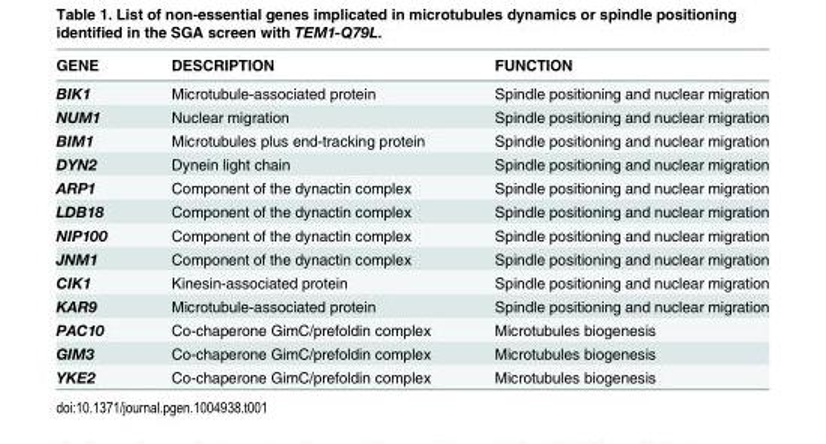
<table><thead><tr><td>GENE</td><td>DESCRIPTION</td><td>FUNCTION</td></tr></thead><tbody><tr><td>BIK1</td><td>Microtubule-associated protein</td><td>Spindle positioning and nuclear migration</td></tr><tr><td>NUM1</td><td>Nuclear migration</td><td>Spindle positioning and nuclear migration</td></tr><tr><td>BIM1</td><td>Microtubules plus end-tracking protein</td><td>Spindle positioning and nuclear migration</td></tr><tr><td>DYN2</td><td>Dynein light chain</td><td>Spindle positioning and nuclear migration</td></tr><tr><td>ARP1</td><td>Component of the dynactin complex</td><td>Spindle positioning and nuclear migration</td></tr><tr><td>LDB18</td><td>Component of the dynactin complex</td><td>Spindle positioning and nuclear migration</td></tr><tr><td>NIP100</td><td>Component of the dynactin complex</td><td>Spindle positioning and nuclear migration</td></tr><tr><td>JNM1</td><td>Component of the dynactin complex</td><td>Spindle positioning and nuclear migration</td></tr><tr><td>CIK1</td><td>Kinesin-associated protein</td><td>Spindle positioning and nuclear migration</td></tr><tr><td>KAR9</td><td>Microtubule-associated protein</td><td>Spindle positioning and nuclear migration</td></tr><tr><td>PAC10</td><td>Co-chaperone GimC/prefoldin complex</td><td>Microtubules biogenesis</td></tr><tr><td>GIM3</td><td>Co-chaperone GimC/prefoldin complex</td><td>Microtubules biogenesis</td></tr><tr><td>YKE2</td><td>Co-chaperone GimC/prefoldin complex</td><td>Microtubules biogenesis</td></tr></tbody></table>